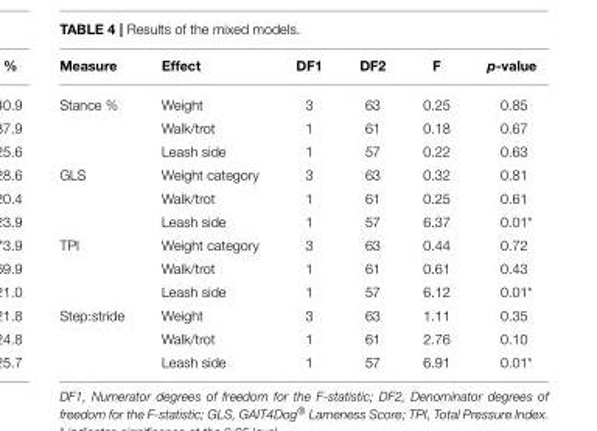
<table><thead><tr><td>Measure</td><td>Effect</td><td>DF1</td><td>DF2</td><td>F</td><td>p-value</td></tr></thead><tbody><tr><td rowspan="3">Stance %</td><td>Weight</td><td>3</td><td>63</td><td>0.25</td><td>0.85</td></tr><tr><td>Walk/trot</td><td>1</td><td>61</td><td>0.18</td><td>0.67</td></tr><tr><td>Leash side</td><td>1</td><td>57</td><td>0.22</td><td>0.63</td></tr><tr><td rowspan="3">GLS</td><td>Weight category</td><td>3</td><td>63</td><td>0.32</td><td>0.81</td></tr><tr><td>Walk/trot</td><td>1</td><td>61</td><td>0.25</td><td>0.61</td></tr><tr><td>Leash side</td><td>1</td><td>57</td><td>6.37</td><td>0.01*</td></tr><tr><td rowspan="3">TPI</td><td>Weight category</td><td>3</td><td>63</td><td>0.44</td><td>0.72</td></tr><tr><td>Walk/trot</td><td>1</td><td>61</td><td>0.61</td><td>0.43</td></tr><tr><td>Leash side</td><td>1</td><td>57</td><td>6.12</td><td>0.01*</td></tr><tr><td rowspan="3">Step:stride</td><td>Weight</td><td>3</td><td>63</td><td>1.11</td><td>0.35</td></tr><tr><td>Walk/trot</td><td>1</td><td>61</td><td>2.76</td><td>0.10</td></tr><tr><td>Leash side</td><td>1</td><td>57</td><td>6.91</td><td>0.01*</td></tr></tbody></table>